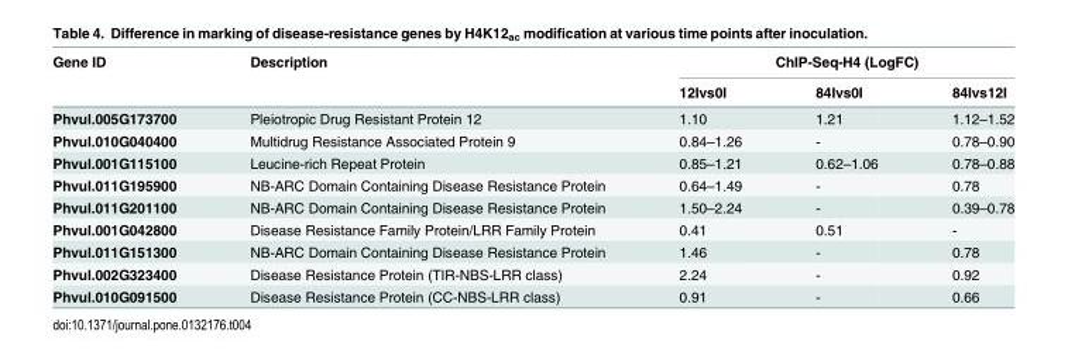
<table><thead><tr><td rowspan="2">Gene ID</td><td rowspan="2">Description</td><td colspan="3">ChIP-Seq-H4 (LogFC)</td></tr><tr><td>12Ivs0I</td><td>84Ivs0I</td><td>84Ivs12I</td></tr></thead><tbody><tr><td>Phvul.005G173700</td><td>Pleiotropic Drug Resistant Protein 12</td><td>1.10</td><td>1.21</td><td>1.12–1.52</td></tr><tr><td>Phvul.010G040400</td><td>Multidrug Resistance Associated Protein 9</td><td>0.84–1.26</td><td>-</td><td>0.78–0.90</td></tr><tr><td>Phvul.001G115100</td><td>Leucine-rich Repeat Protein</td><td>0.85–1.21</td><td>0.62–1.06</td><td>0.78–0.88</td></tr><tr><td>Phvul.011G195900</td><td>NB-ARC Domain Containing Disease Resistance Protein</td><td>0.64–1.49</td><td>-</td><td>0.78</td></tr><tr><td>Phvul.011G201100</td><td>NB-ARC Domain Containing Disease Resistance Protein</td><td>1.50–2.24</td><td>-</td><td>0.39–0.78</td></tr><tr><td>Phvul.001G042800</td><td>Disease Resistance Family Protein/LRR Family Protein</td><td>0.41</td><td>0.51</td><td>-</td></tr><tr><td>Phvul.011G151300</td><td>NB-ARC Domain Containing Disease Resistance Protein</td><td>1.46</td><td>-</td><td>0.78</td></tr><tr><td>Phvul.002G323400</td><td>Disease Resistance Protein (TIR-NBS-LRR class)</td><td>2.24</td><td>-</td><td>0.92</td></tr><tr><td>Phvul.010G091500</td><td>Disease Resistance Protein (CC-NBS-LRR class)</td><td>0.91</td><td>-</td><td>0.66</td></tr></tbody></table>